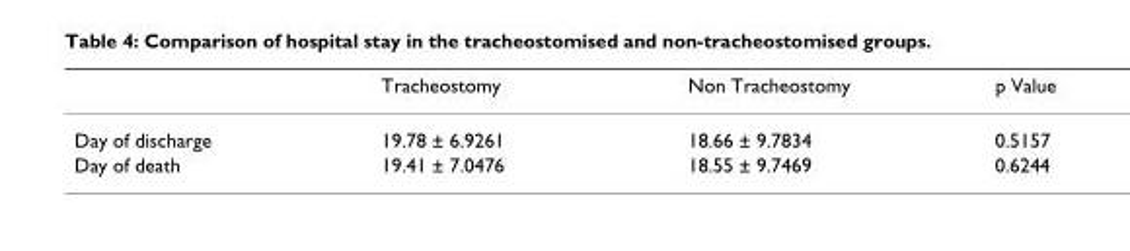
<table><thead><tr><td></td><td>Tracheostomy</td><td>Non Tracheostomy</td><td>p Value</td></tr></thead><tbody><tr><td>Day of discharge</td><td>19.78 ± 6.9261</td><td>18.66 ± 9.7834</td><td>0.5157</td></tr><tr><td>Day of death</td><td>19.41 ± 7.0476</td><td>18.55 ± 9.7469</td><td>0.6244</td></tr></tbody></table>